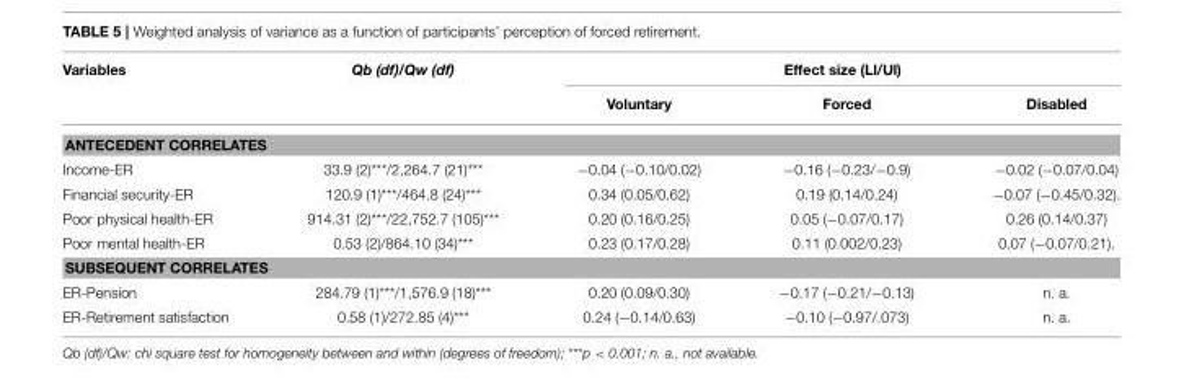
<table><thead><tr><td rowspan="2">Variables</td><td rowspan="2">Qb (df)/Qw (df)</td><td colspan="3">Effect size (Ll/Ul)</td></tr><tr><td>Voluntary</td><td>Forced</td><td>Disabled</td></tr></thead><tbody><tr><td colspan="5">ANTECEDENT CORRELATES</td></tr><tr><td>Income-ER</td><td>33.9 (2)***/2,264.7 (21)***</td><td>−0.04 (−0.10/0.02)</td><td>−0.16 (−0.23/−0.9)</td><td>−0.02 (−0.07/0.04)</td></tr><tr><td>Financial security-ER</td><td>120.9 (1)***/464.8 (24)***</td><td>0.34 (0.05/0.62)</td><td>0.19 (0.14/0.24)</td><td>−0.07 (−0.45/0.32).</td></tr><tr><td>Poor physical health-ER</td><td>914.31 (2)***/22,752.7 (105)***</td><td>0.20 (0.16/0.25)</td><td>0.05 (−0.07/0.17)</td><td>0.26 (0.14/0.37)</td></tr><tr><td>Poor mental health-ER</td><td>0.53 (2)/864.10 (34)***</td><td>0.23 (0.17/0.28)</td><td>0.11 (0.002/0.23)</td><td>0.07 (−0.07/0.21).</td></tr><tr><td colspan="5">SUBSEQUENT CORRELATES</td></tr><tr><td>ER-Pension</td><td>284.79 (1)***/1,576.9 (18)***</td><td>0.20 (0.09/0.30)</td><td>−0.17 (−0.21/−0.13)</td><td>n. a.</td></tr><tr><td>ER-Retirement satisfaction</td><td>0.58 (1)/272.85 (4)***</td><td>0.24 (−0.14/0.63)</td><td>−0.10 (−0.97/.073)</td><td>n. a.</td></tr></tbody></table>